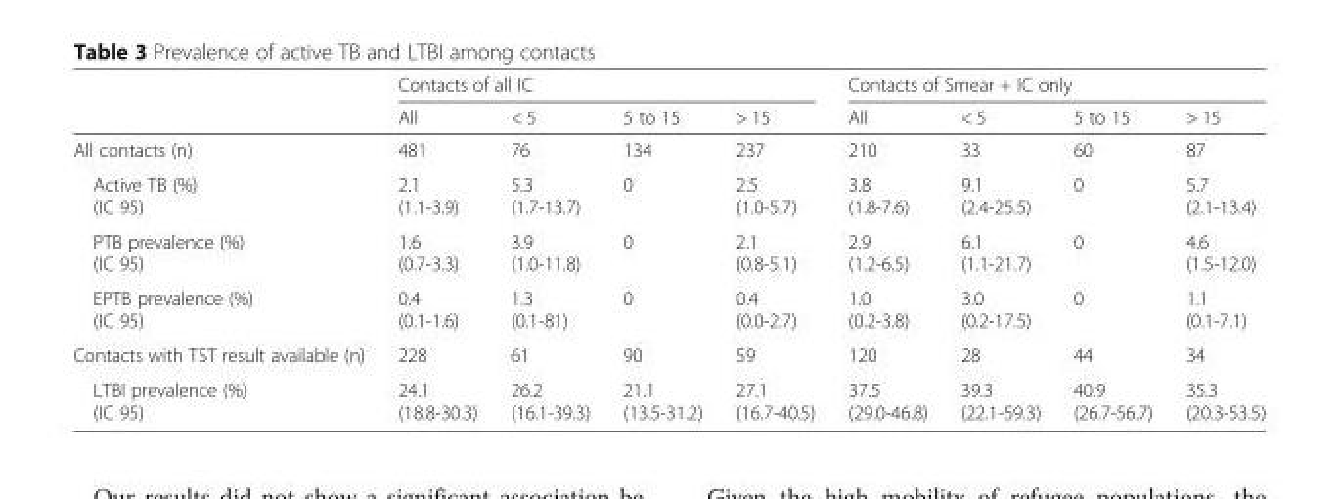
<table><thead><tr><td rowspan="2"></td><td colspan="4">Contacts of all IC</td><td colspan="4">Contacts of Smear + IC only</td></tr><tr><td>All</td><td>&lt; 5</td><td>5 to 15</td><td>&gt; 15</td><td>All</td><td>&lt; 5</td><td>5 to 15</td><td>&gt; 15</td></tr></thead><tbody><tr><td>All contacts (n)</td><td>481</td><td>76</td><td>134</td><td>237</td><td>210</td><td>33</td><td>60</td><td>87</td></tr><tr><td>Active TB (%) (IC 95)</td><td>2.1 (1.1-3.9)</td><td>5.3 (1.7-13.7)</td><td>0</td><td>2.5 (1.0-5.7)</td><td>3.8 (1.8-7.6)</td><td>9.1 (2.4-25.5)</td><td>0</td><td>5.7 (2.1-13.4)</td></tr><tr><td>PTB prevalence (%) (IC 95)</td><td>1.6 (0.7-3.3)</td><td>3.9 (1.0-11.8)</td><td>0</td><td>2.1 (0.8-5.1)</td><td>2.9 (1.2-6.5)</td><td>6.1 (1.1-21.7)</td><td>0</td><td>4.6 (1.5-12.0)</td></tr><tr><td>EPTB prevalence (%) (IC 95)</td><td>0.4 (0.1-1.6)</td><td>1.3 (0.1-81)</td><td>0</td><td>0.4 (0.0-2.7)</td><td>1.0 (0.2-3.8)</td><td>3.0 (0.2-17.5)</td><td>0</td><td>1.1 (0.1-7.1)</td></tr><tr><td>Contacts with TST result available (n)</td><td>228</td><td>61</td><td>90</td><td>59</td><td>120</td><td>28</td><td>44</td><td>34</td></tr><tr><td>LTBI prevalence (%) (IC 95)</td><td>24.1 (18.8-30.3)</td><td>26.2 (16.1-39.3)</td><td>21.1 (13.5-31.2)</td><td>27.1 (16.7-40.5)</td><td>37.5 (29.0-46.8)</td><td>39.3 (22.1-59.3)</td><td>40.9 (26.7-56.7)</td><td>35.3 (20.3-53.5)</td></tr></tbody></table>